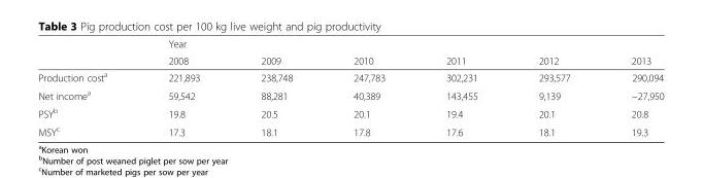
<table><thead><tr><td rowspan="2"></td><td colspan="6">Year</td></tr><tr><td>2008</td><td>2009</td><td>2010</td><td>2011</td><td>2012</td><td>2013</td></tr></thead><tbody><tr><td>Production cost<sup>a</sup></td><td>221,893</td><td>238,748</td><td>247,783</td><td>302,231</td><td>293,577</td><td>290,094</td></tr><tr><td>Net income<sup>a</sup></td><td>59,542</td><td>88,281</td><td>40,389</td><td>143,455</td><td>9,139</td><td>−27,950</td></tr><tr><td>PSY<sup>b</sup></td><td>19.8</td><td>20.5</td><td>20.1</td><td>19.4</td><td>20.1</td><td>20.8</td></tr><tr><td>MSY<sup>c</sup></td><td>17.3</td><td>18.1</td><td>17.8</td><td>17.6</td><td>18.1</td><td>19.3</td></tr></tbody></table>